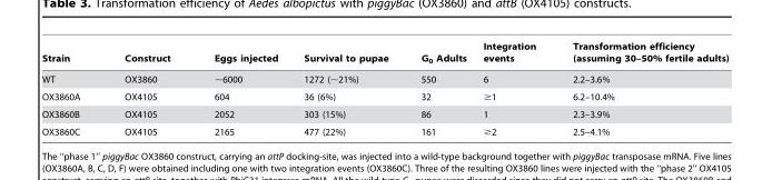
<table><thead><tr><td>Strain</td><td>Construct</td><td>Eggs injected</td><td>Survival to pupae</td><td>G<sub>0</sub> Adults</td><td>Integration events</td><td>Transformation efficiency (assuming 30–50% fertile adults)</td></tr></thead><tbody><tr><td>WT</td><td>OX3860</td><td>∼6000</td><td>1272 (∼21%)</td><td>550</td><td>6</td><td>2.2–3.6%</td></tr><tr><td>OX3860A</td><td>OX4105</td><td>604</td><td>36 (6%)</td><td>32</td><td>≥1</td><td>6.2–10.4%</td></tr><tr><td>OX3860B</td><td>OX4105</td><td>2052</td><td>303 (15%)</td><td>86</td><td>1</td><td>2.3–3.9%</td></tr><tr><td>OX3860C</td><td>OX4105</td><td>2165</td><td>477 (22%)</td><td>161</td><td>≥2</td><td>2.5–4.1%</td></tr></tbody></table>